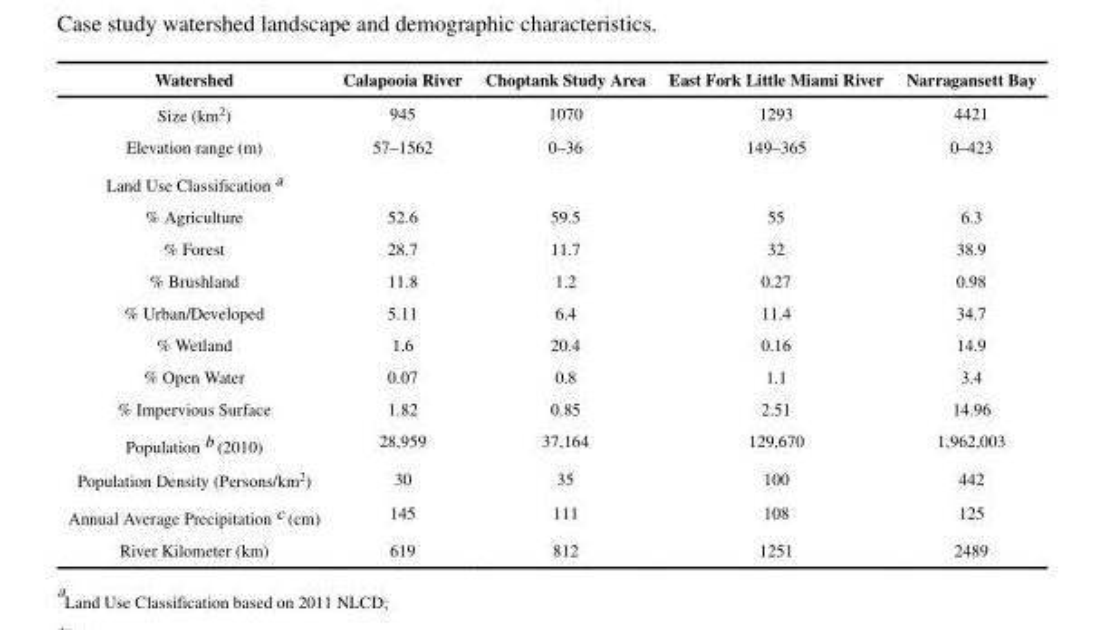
<table><thead><tr><td>Watershed</td><td>Calapooia River</td><td>Choptank Study Area</td><td>East Fork Little Miami River</td><td>Narragansett Bay</td></tr></thead><tbody><tr><td>Size (km<sup>2</sup>)</td><td>945</td><td>1070</td><td>1293</td><td>4421</td></tr><tr><td>Elevation range (m)</td><td>57–1562</td><td>0–36</td><td>149–365</td><td>0–423</td></tr><tr><td colspan="5">Land Use Classification a</td></tr><tr><td>% Agriculture</td><td>52.6</td><td>59.5</td><td>55</td><td>6.3</td></tr><tr><td>% Forest</td><td>28.7</td><td>11.7</td><td>32</td><td>38.9</td></tr><tr><td>% Brushland</td><td>11.8</td><td>1.2</td><td>0.27</td><td>0.98</td></tr><tr><td>% Urban/Developed</td><td>5.11</td><td>6.4</td><td>11.4</td><td>34.7</td></tr><tr><td>% Wetland</td><td>1.6</td><td>20.4</td><td>0.16</td><td>14.9</td></tr><tr><td>% Open Water</td><td>0.07</td><td>0.8</td><td>1.1</td><td>3.4</td></tr><tr><td>% Impervious Surface</td><td>1.82</td><td>0.85</td><td>2.51</td><td>14.96</td></tr><tr><td>Population b (2010)</td><td>28,959</td><td>37,164</td><td>129,670</td><td>1,962,003</td></tr><tr><td>Population Density (Persons/km<sup>2</sup>)</td><td>30</td><td>35</td><td>100</td><td>442</td></tr><tr><td>Annual Average Precipitation c (cm)</td><td>145</td><td>111</td><td>108</td><td>125</td></tr><tr><td>River Kilometer (km)</td><td>619</td><td>812</td><td>1251</td><td>2489</td></tr></tbody></table>